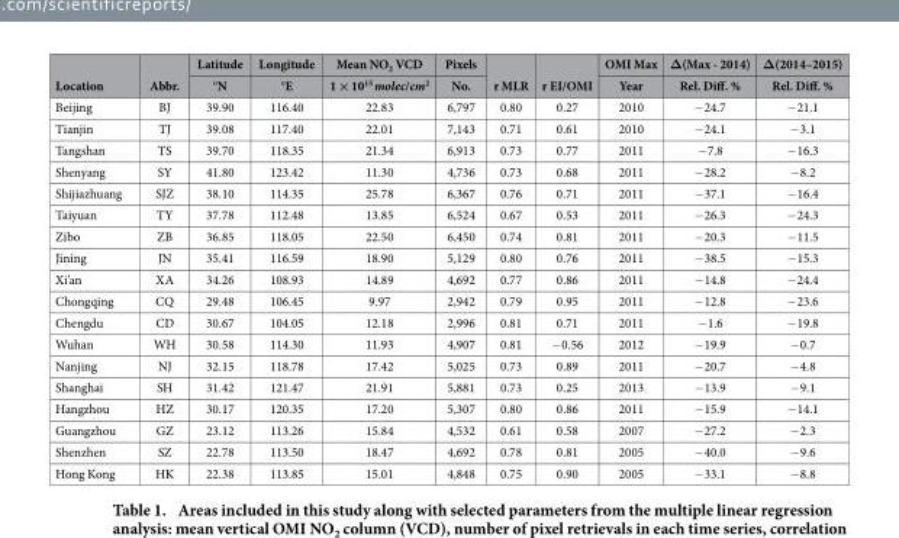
<table><thead><tr><td rowspan="2">Location</td><td rowspan="2">Abbr.</td><td rowspan="2">Latitude °N</td><td rowspan="2">Longitude °E</td><td rowspan="2">Mean NO<sub>2</sub> VCD 1 × 10<sup>15</sup> molec/cm<sup>2</sup></td><td rowspan="2">Pixels No.</td><td rowspan="2">r MLR</td><td rowspan="2">r EI/OMI</td><td rowspan="2">OMI Max Year</td><td rowspan="2">Δ(Max - 2014) Rel. Diff. %</td><td rowspan="2">Δ(2014–2015) Rel. Diff. %</td></tr><tr></tr></thead><tbody><tr><td>Beijing</td><td>BJ</td><td>39.90</td><td>116.40</td><td>22.83</td><td>6,797</td><td>0.80</td><td>0.27</td><td>2010</td><td>− 24.7</td><td>− 21.1</td></tr><tr><td>Tianjin</td><td>TJ</td><td>39.08</td><td>117.40</td><td>22.01</td><td>7,143</td><td>0.71</td><td>0.61</td><td>2010</td><td>− 24.1</td><td>− 3.1</td></tr><tr><td>Tangshan</td><td>TS</td><td>39.70</td><td>118.35</td><td>21.34</td><td>6,913</td><td>0.73</td><td>0.77</td><td>2011</td><td>− 7.8</td><td>− 16.3</td></tr><tr><td>Shenyang</td><td>SY</td><td>41.80</td><td>123.42</td><td>11.30</td><td>4,736</td><td>0.73</td><td>0.68</td><td>2011</td><td>− 28.2</td><td>− 8.2</td></tr><tr><td>Shijiazhuang</td><td>SJZ</td><td>38.10</td><td>114.35</td><td>25.78</td><td>6,367</td><td>0.76</td><td>0.71</td><td>2011</td><td>− 37.1</td><td>− 16.4</td></tr><tr><td>Taiyuan</td><td>TY</td><td>37.78</td><td>112.48</td><td>13.85</td><td>6,524</td><td>0.67</td><td>0.53</td><td>2011</td><td>− 26.3</td><td>− 24.3</td></tr><tr><td>Zibo</td><td>ZB</td><td>36.85</td><td>118.05</td><td>22.50</td><td>6,450</td><td>0.74</td><td>0.81</td><td>2011</td><td>− 20.3</td><td>− 11.5</td></tr><tr><td>Jining</td><td>JN</td><td>35.41</td><td>116.59</td><td>18.90</td><td>5,129</td><td>0.80</td><td>0.76</td><td>2011</td><td>− 38.5</td><td>− 15.3</td></tr><tr><td>Xi’an</td><td>XA</td><td>34.26</td><td>108.93</td><td>14.89</td><td>4,692</td><td>0.77</td><td>0.86</td><td>2011</td><td>− 14.8</td><td>− 24.4</td></tr><tr><td>Chongqing</td><td>CQ</td><td>29.48</td><td>106.45</td><td>9.97</td><td>2,942</td><td>0.79</td><td>0.95</td><td>2011</td><td>− 12.8</td><td>− 23.6</td></tr><tr><td>Chengdu</td><td>CD</td><td>30.67</td><td>104.05</td><td>12.18</td><td>2,996</td><td>0.81</td><td>0.71</td><td>2011</td><td>− 1.6</td><td>− 19.8</td></tr><tr><td>Wuhan</td><td>WH</td><td>30.58</td><td>114.30</td><td>11.93</td><td>4,907</td><td>0.81</td><td>− 0.56</td><td>2012</td><td>− 19.9</td><td>− 0.7</td></tr><tr><td>Nanjing</td><td>NJ</td><td>32.15</td><td>118.78</td><td>17.42</td><td>5,025</td><td>0.73</td><td>0.89</td><td>2011</td><td>− 20.7</td><td>− 4.8</td></tr><tr><td>Shanghai</td><td>SH</td><td>31.42</td><td>121.47</td><td>21.91</td><td>5,881</td><td>0.73</td><td>0.25</td><td>2013</td><td>− 13.9</td><td>− 9.1</td></tr><tr><td>Hangzhou</td><td>HZ</td><td>30.17</td><td>120.35</td><td>17.20</td><td>5,307</td><td>0.80</td><td>0.86</td><td>2011</td><td>− 15.9</td><td>− 14.1</td></tr><tr><td>Guangzhou</td><td>GZ</td><td>23.12</td><td>113.26</td><td>15.84</td><td>4,532</td><td>0.61</td><td>0.58</td><td>2007</td><td>− 27.2</td><td>− 2.3</td></tr><tr><td>Shenzhen</td><td>SZ</td><td>22.78</td><td>113.50</td><td>18.47</td><td>4,692</td><td>0.78</td><td>0.81</td><td>2005</td><td>− 40.0</td><td>− 9.6</td></tr><tr><td>Hong Kong</td><td>HK</td><td>22.38</td><td>113.85</td><td>15.01</td><td>4,848</td><td>0.75</td><td>0.90</td><td>2005</td><td>− 33.1</td><td>− 8.8</td></tr></tbody></table>